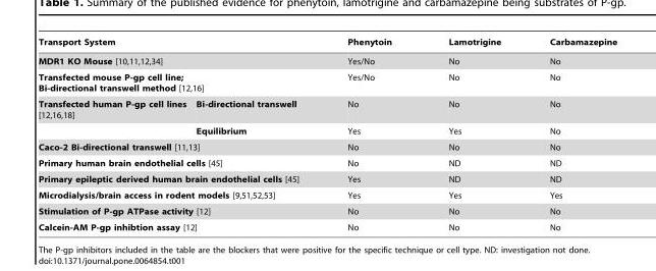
<table><thead><tr><td rowspan="3" colspan="2">Transport System MDR1 KO Mouse [10,11,12,34] Transfected mouse P-gp cell line; Bi-directional transwell method [12,16]</td><td rowspan="4">Phenytoin Yes/No Yes/No No</td><td rowspan="4">Lamotrigine No No No</td><td rowspan="4">Carbamazepine No No No</td></tr><tr></tr><tr></tr><tr><td>Transfected human P-gp cell lines [12,16,18]</td><td>Bi-directional transwell</td></tr></thead><tbody><tr><td></td><td>Equilibrium</td><td>Yes</td><td>Yes</td><td>No</td></tr><tr><td colspan="2">Caco-2 Bi-directional transwell [11,13]</td><td>No</td><td>No</td><td>No</td></tr><tr><td colspan="2">Primary human brain endothelial cells [45]</td><td>No</td><td>ND</td><td>ND</td></tr><tr><td colspan="2">Primary epileptic derived human brain endothelial cells [45]</td><td>Yes</td><td>ND</td><td>ND</td></tr><tr><td colspan="2">Microdialysis/brain access in rodent models [9,51,52,53]</td><td>Yes</td><td>Yes</td><td>Yes</td></tr><tr><td colspan="2">Stimulation of P-gp ATPase activity [12]</td><td>No</td><td>No</td><td>No</td></tr><tr><td colspan="2">Calcein-AM P-gp inhibtion assay [12]</td><td>No</td><td>No</td><td>No</td></tr></tbody></table>